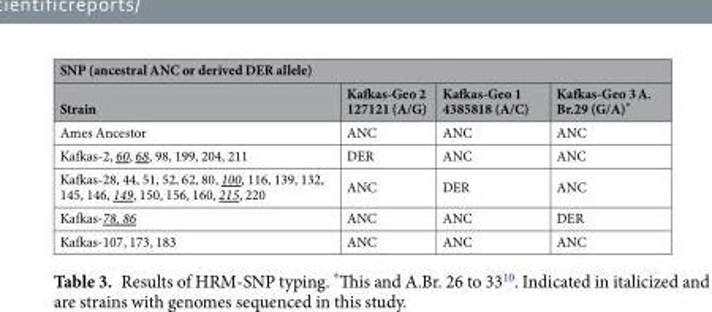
<table><thead><tr><td colspan="4">SNP (ancestral ANC or derived DER allele)</td></tr><tr><td>Strain</td><td>Kafkas-Geo 2 127121 (A/G)</td><td>Kafkas-Geo 1 4385818 (A/C)</td><td>Kafkas-Geo 3 A. Br.29 (G/A)*</td></tr></thead><tbody><tr><td>Ames Ancestor</td><td>ANC</td><td>ANC</td><td>ANC</td></tr><tr><td>Kafkas-2, 60, 68, 98, 199, 204, 211</td><td>DER</td><td>ANC</td><td>ANC</td></tr><tr><td>Kafkas-28, 44, 51, 52, 62, 80, 100, 116, 139, 132, 145, 146, 149, 150, 156, 160, 215, 220</td><td>ANC</td><td>DER</td><td>ANC</td></tr><tr><td>Kafkas-78, 86</td><td>ANC</td><td>ANC</td><td>DER</td></tr><tr><td>Kafkas-107, 173, 183</td><td>ANC</td><td>ANC</td><td>ANC</td></tr></tbody></table>